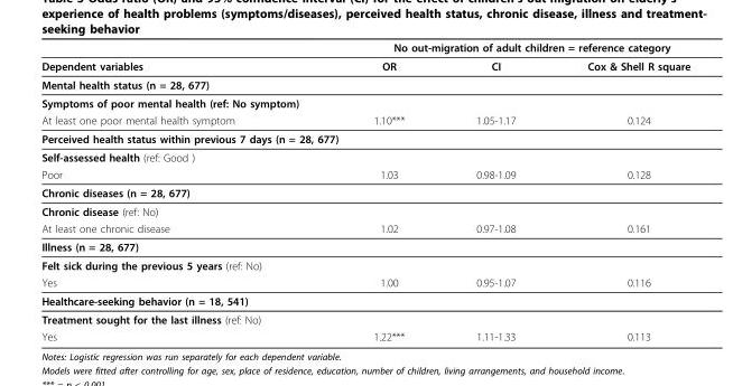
<table><thead><tr><td rowspan="2">Dependent variables</td><td colspan="3">No out-migration of adult children = reference category</td></tr><tr><td>OR</td><td>CI</td><td>Cox &amp; Shell R square</td></tr></thead><tbody><tr><td colspan="4">Mental health status (n = 28, 677)</td></tr><tr><td colspan="4">Symptoms of poor mental health (ref: No symptom)</td></tr><tr><td>At least one poor mental health symptom</td><td>1.10***</td><td>1.05-1.17</td><td>0.124</td></tr><tr><td colspan="4">Perceived health status within previous 7 days (n = 28, 677)</td></tr><tr><td colspan="4">Self-assessed health (ref: Good )</td></tr><tr><td>Poor</td><td>1.03</td><td>0.98-1.09</td><td>0.128</td></tr><tr><td colspan="4">Chronic diseases (n = 28, 677)</td></tr><tr><td colspan="4">Chronic disease (ref: No)</td></tr><tr><td>At least one chronic disease</td><td>1.02</td><td>0.97-1.08</td><td>0.161</td></tr><tr><td colspan="4">Illness (n = 28, 677)</td></tr><tr><td colspan="4">Felt sick during the previous 5 years (ref: No)</td></tr><tr><td>Yes</td><td>1.00</td><td>0.95-1.07</td><td>0.116</td></tr><tr><td colspan="4">Healthcare-seeking behavior (n = 18, 541)</td></tr><tr><td colspan="4">Treatment sought for the last illness (ref: No)</td></tr><tr><td>Yes</td><td>1.22***</td><td>1.11-1.33</td><td>0.113</td></tr></tbody></table>